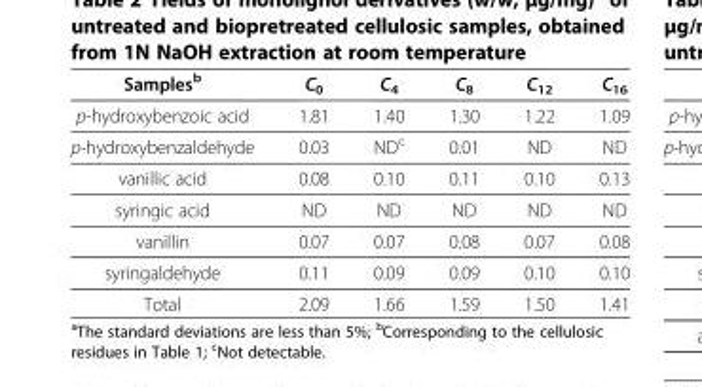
<table><thead><tr><td>Samples<sup>b</sup></td><td>C<sub>0</sub></td><td>C<sub>4</sub></td><td>C<sub>8</sub></td><td>C<sub>12</sub></td><td>C<sub>16</sub></td></tr></thead><tbody><tr><td>p-hydroxybenzoic acid</td><td>1.81</td><td>1.40</td><td>1.30</td><td>1.22</td><td>1.09</td></tr><tr><td>p-hydroxybenzaldehyde</td><td>0.03</td><td>ND<sup>c</sup></td><td>0.01</td><td>ND</td><td>ND</td></tr><tr><td>vanillic acid</td><td>0.08</td><td>0.10</td><td>0.11</td><td>0.10</td><td>0.13</td></tr><tr><td>syringic acid</td><td>ND</td><td>ND</td><td>ND</td><td>ND</td><td>ND</td></tr><tr><td>vanillin</td><td>0.07</td><td>0.07</td><td>0.08</td><td>0.07</td><td>0.08</td></tr><tr><td>syringaldehyde</td><td>0.11</td><td>0.09</td><td>0.09</td><td>0.10</td><td>0.10</td></tr><tr><td>Total</td><td>2.09</td><td>1.66</td><td>1.59</td><td>1.50</td><td>1.41</td></tr></tbody></table>